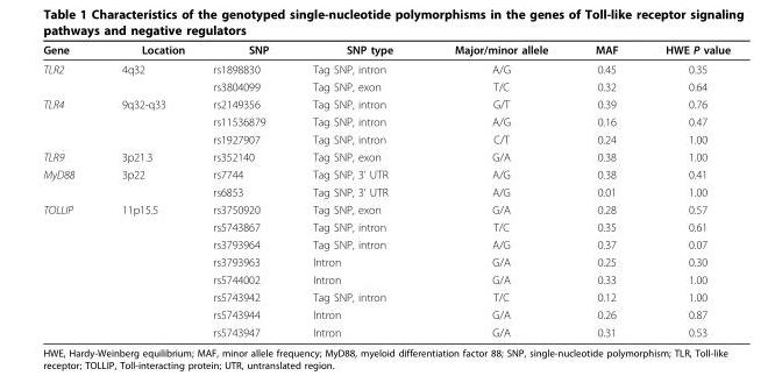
<table><thead><tr><td>Gene</td><td>Location</td><td>SNP</td><td>SNP type</td><td>Major/minor allele</td><td>MAF</td><td>HWE P value</td></tr></thead><tbody><tr><td rowspan="2">TLR2</td><td>4q32</td><td>rs1898830</td><td>Tag SNP, intron</td><td>A/G</td><td>0.45</td><td>0.35</td></tr><tr><td></td><td>rs3804099</td><td>Tag SNP, exon</td><td>T/C</td><td>0.32</td><td>0.64</td></tr><tr><td rowspan="3">TLR4</td><td>9q32-q33</td><td>rs2149356</td><td>Tag SNP, intron</td><td>G/T</td><td>0.39</td><td>0.76</td></tr><tr><td></td><td>rs11536879</td><td>Tag SNP, intron</td><td>A/G</td><td>0.16</td><td>0.47</td></tr><tr><td></td><td>rs1927907</td><td>Tag SNP, intron</td><td>C/T</td><td>0.24</td><td>1.00</td></tr><tr><td>TLR9</td><td>3p21.3</td><td>rs352140</td><td>Tag SNP, exon</td><td>G/A</td><td>0.38</td><td>1.00</td></tr><tr><td rowspan="2">MyD88</td><td>3p22</td><td>rs7744</td><td>Tag SNP, 3’ UTR</td><td>A/G</td><td>0.38</td><td>0.41</td></tr><tr><td></td><td>rs6853</td><td>Tag SNP, 3’ UTR</td><td>A/G</td><td>0.01</td><td>1.00</td></tr><tr><td rowspan="8">TOLLIP</td><td>11p15.5</td><td>rs3750920</td><td>Tag SNP, exon</td><td>G/A</td><td>0.28</td><td>0.57</td></tr><tr><td></td><td>rs5743867</td><td>Tag SNP, intron</td><td>T/C</td><td>0.35</td><td>0.61</td></tr><tr><td></td><td>rs3793964</td><td>Tag SNP, intron</td><td>A/G</td><td>0.37</td><td>0.07</td></tr><tr><td></td><td>rs3793963</td><td>Intron</td><td>G/A</td><td>0.25</td><td>0.30</td></tr><tr><td></td><td>rs5744002</td><td>Intron</td><td>G/A</td><td>0.33</td><td>1.00</td></tr><tr><td></td><td>rs5743942</td><td>Tag SNP, intron</td><td>T/C</td><td>0.12</td><td>1.00</td></tr><tr><td></td><td>rs5743944</td><td>Intron</td><td>G/A</td><td>0.26</td><td>0.87</td></tr><tr><td></td><td>rs5743947</td><td>Intron</td><td>G/A</td><td>0.31</td><td>0.53</td></tr></tbody></table>